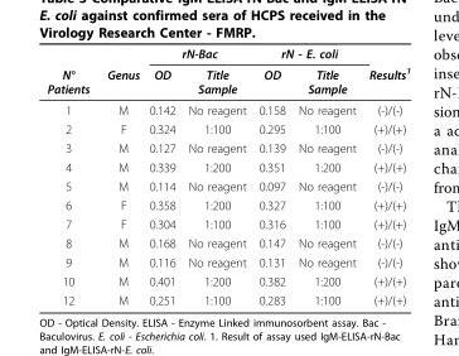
<table><thead><tr><td rowspan="2">N° Patients</td><td rowspan="2">Genus</td><td colspan="2">rN-Bac</td><td colspan="2">rN - E. coli</td><td rowspan="2">Results<sup>1</sup></td></tr><tr><td>OD</td><td>Title Sample</td><td>OD</td><td>Title Sample</td></tr></thead><tbody><tr><td>1</td><td>M</td><td>0.142</td><td>No reagent</td><td>0.158</td><td>No reagent</td><td>(-)/(-)</td></tr><tr><td>2</td><td>F</td><td>0.324</td><td>1:100</td><td>0.295</td><td>1:100</td><td>(+)/(+)</td></tr><tr><td>3</td><td>M</td><td>0.127</td><td>No reagent</td><td>0.139</td><td>No reagent</td><td>(-)/(-)</td></tr><tr><td>4</td><td>M</td><td>0.339</td><td>1:200</td><td>0.351</td><td>1:200</td><td>(+)/(+)</td></tr><tr><td>5</td><td>M</td><td>0.114</td><td>No reagent</td><td>0.097</td><td>No reagent</td><td>(-)/(-)</td></tr><tr><td>6</td><td>F</td><td>0.358</td><td>1:200</td><td>0.327</td><td>1:100</td><td>(+)/(+)</td></tr><tr><td>7</td><td>F</td><td>0.304</td><td>1:100</td><td>0.316</td><td>1:100</td><td>(+)/(+)</td></tr><tr><td>8</td><td>M</td><td>0.168</td><td>No reagent</td><td>0.147</td><td>No reagent</td><td>(-)/(-)</td></tr><tr><td>9</td><td>M</td><td>0.116</td><td>No reagent</td><td>0.131</td><td>No reagent</td><td>(-)/(-)</td></tr><tr><td>10</td><td>M</td><td>0.401</td><td>1:200</td><td>0.382</td><td>1:200</td><td>(+)/(+)</td></tr><tr><td>12</td><td>M</td><td>0.251</td><td>1:100</td><td>0.283</td><td>1:100</td><td>(+)/(+)</td></tr></tbody></table>